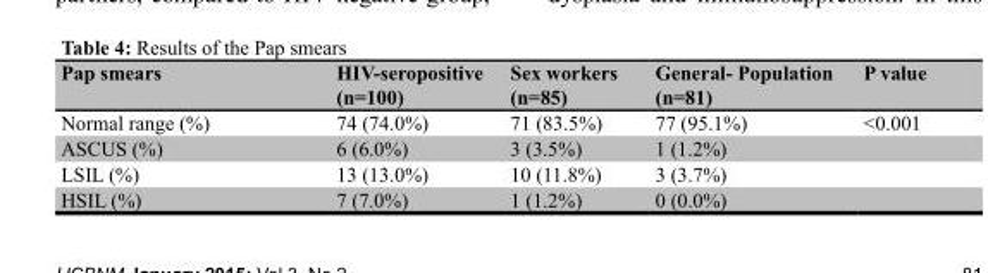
<table><thead><tr><td>Pap smears</td><td>HIV-seropositive (n=100)</td><td>Sex workers (n=85)</td><td>General- Population (n=81)</td><td>P value</td></tr></thead><tbody><tr><td>Normal range (%)</td><td>74 (74.0%)</td><td>71 (83.5%)</td><td>77 (95.1%)</td><td>&lt;0.001</td></tr><tr><td>ASCUS (%)</td><td>6 (6.0%)</td><td>3 (3.5%)</td><td>1 (1.2%)</td><td></td></tr><tr><td>LSIL (%)</td><td>13 (13.0%)</td><td>10 (11.8%)</td><td>3 (3.7%)</td><td></td></tr><tr><td>HSIL (%)</td><td>7 (7.0%)</td><td>1 (1.2%)</td><td>0 (0.0%)</td><td></td></tr></tbody></table>